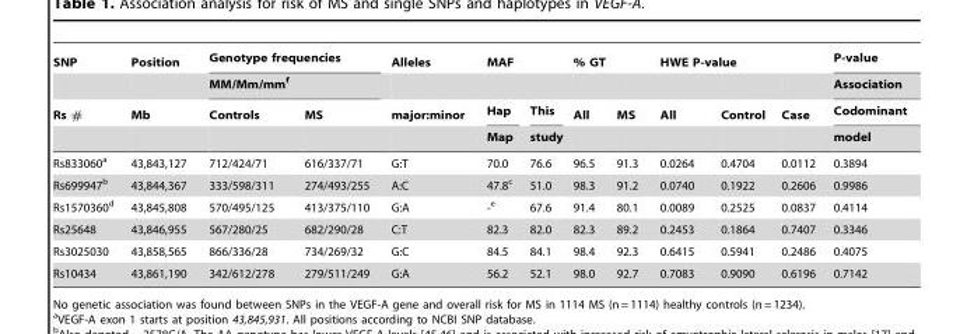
<table><thead><tr><td rowspan="4">SNP Rs #</td><td rowspan="4">Position Mb</td><td rowspan="2" colspan="2">Genotype frequencies MM/Mm/mm<sup>f</sup></td><td rowspan="4">Alleles major:minor</td><td colspan="2">MAF</td><td colspan="2">% GT</td><td colspan="3">HWE P-value</td><td rowspan="4">P-value Association Codominant model</td></tr><tr><td rowspan="3">Hap Map</td><td rowspan="3">This study</td><td rowspan="3">All</td><td rowspan="3">MS</td><td rowspan="3">All</td><td rowspan="3">Control</td><td rowspan="3">Case</td></tr><tr><td rowspan="2">Controls</td><td rowspan="2">MS</td></tr><tr></tr></thead><tbody><tr><td>Rs833060<sup>a</sup></td><td>43,843,127</td><td>712/424/71</td><td>616/337/71</td><td>G:T</td><td>70.0</td><td>76.6</td><td>96.5</td><td>91.3</td><td>0.0264</td><td>0.4704</td><td>0.0112</td><td>0.3894</td></tr><tr><td>Rs699947<sup>b</sup></td><td>43,844,367</td><td>333/598/311</td><td>274/493/255</td><td>A:C</td><td>47.8<sup>c</sup></td><td>51.0</td><td>98.3</td><td>91.2</td><td>0.0740</td><td>0.1922</td><td>0.2606</td><td>0.9986</td></tr><tr><td>Rs1570360<sup>d</sup></td><td>43,845,808</td><td>570/495/125</td><td>413/375/110</td><td>G:A</td><td>-e</td><td>67.6</td><td>91.4</td><td>80.1</td><td>0.0089</td><td>0.2525</td><td>0.0837</td><td>0.4114</td></tr><tr><td>Rs25648</td><td>43,846,955</td><td>567/280/25</td><td>682/290/28</td><td>C:T</td><td>82.3</td><td>82.0</td><td>82.3</td><td>89.2</td><td>0.2453</td><td>0.1864</td><td>0.7407</td><td>0.3346</td></tr><tr><td>Rs3025030</td><td>43,858,565</td><td>866/336/28</td><td>734/269/32</td><td>G:C</td><td>84.5</td><td>84.1</td><td>98.4</td><td>92.3</td><td>0.6415</td><td>0.5941</td><td>0.2486</td><td>0.4075</td></tr><tr><td>Rs10434</td><td>43,861,190</td><td>342/612/278</td><td>279/511/249</td><td>G:A</td><td>56.2</td><td>52.1</td><td>98.0</td><td>92.7</td><td>0.7083</td><td>0.9090</td><td>0.6196</td><td>0.7142</td></tr></tbody></table>